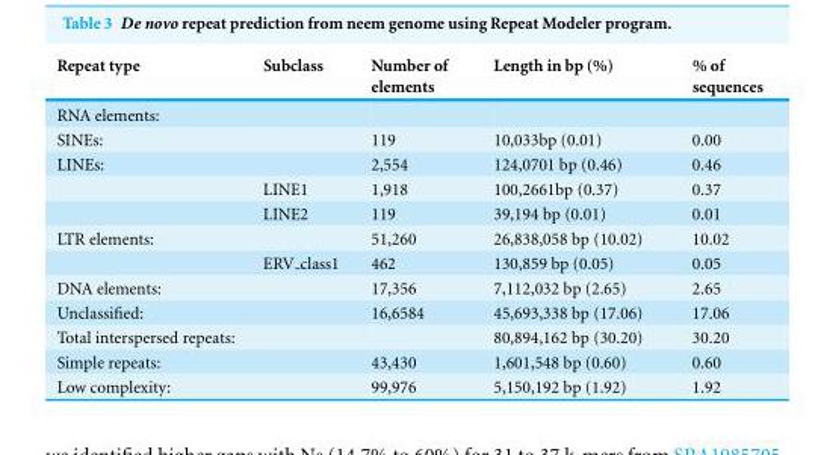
<table><thead><tr><td>Repeat type</td><td>Subclass</td><td>Number of elements</td><td>Length in bp (%)</td><td>% of sequences</td></tr></thead><tbody><tr><td colspan="5">RNA elements:</td></tr><tr><td>SINEs:</td><td></td><td>119</td><td>10,033bp (0.01)</td><td>0.00</td></tr><tr><td rowspan="3">LINEs:</td><td></td><td>2,554</td><td>124,0701 bp (0.46)</td><td>0.46</td></tr><tr><td>LINE1</td><td>1,918</td><td>100,2661bp (0.37)</td><td>0.37</td></tr><tr><td>LINE2</td><td>119</td><td>39,194 bp (0.01)</td><td>0.01</td></tr><tr><td rowspan="2">LTR elements:</td><td></td><td>51,260</td><td>26,838,058 bp (10.02)</td><td>10.02</td></tr><tr><td>ERV class1</td><td>462</td><td>130,859 bp (0.05)</td><td>0.05</td></tr><tr><td>DNA elements:</td><td></td><td>17,356</td><td>7,112,032 bp (2.65)</td><td>2.65</td></tr><tr><td>Unclassified:</td><td></td><td>16,6584</td><td>45,693,338 bp (17.06)</td><td>17.06</td></tr><tr><td>Total interspersed repeats:</td><td></td><td></td><td>80,894,162 bp (30.20)</td><td>30.20</td></tr><tr><td>Simple repeats:</td><td></td><td>43,430</td><td>1,601,548 bp (0.60)</td><td>0.60</td></tr><tr><td>Low complexity:</td><td></td><td>99,976</td><td>5,150,192 bp (1.92)</td><td>1.92</td></tr></tbody></table>